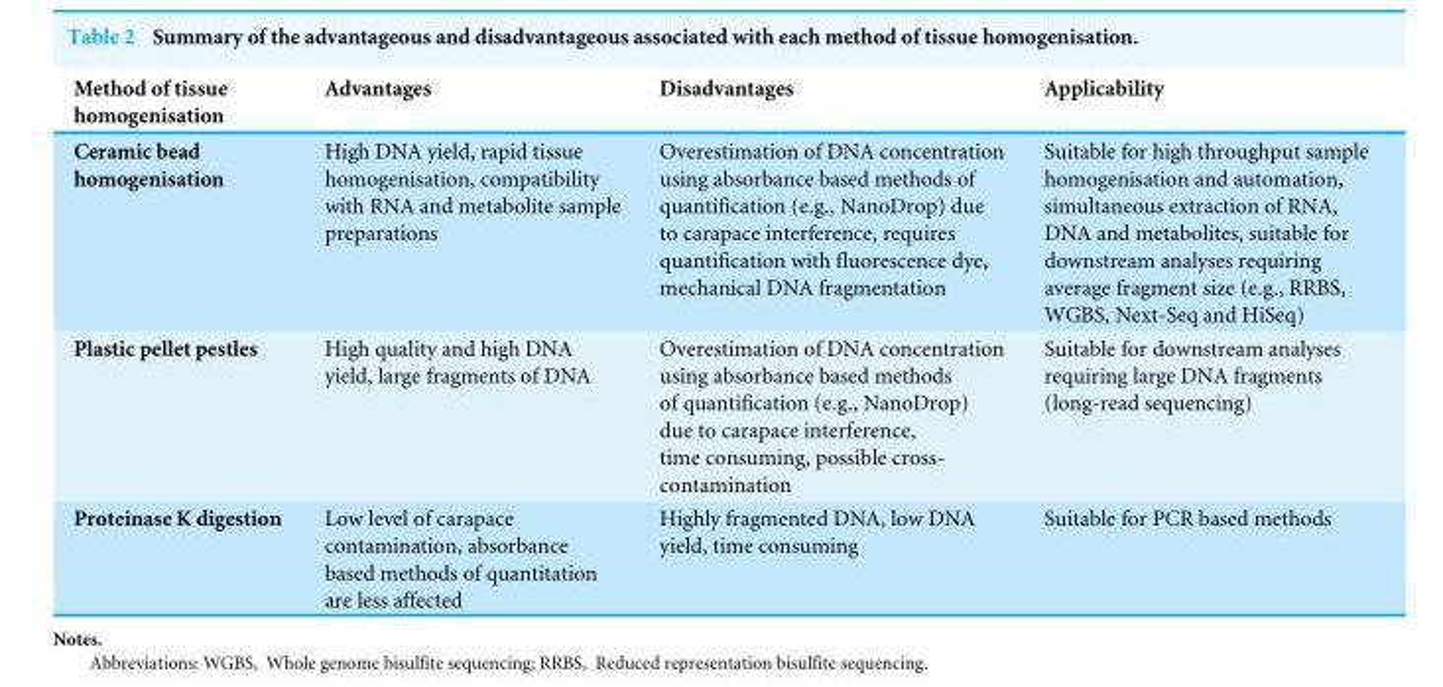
<table><thead><tr><td>Method of tissue homogenisation</td><td>Advantages</td><td>Disadvantages</td><td>Applicability</td></tr></thead><tbody><tr><td>Ceramic bead homogenisation</td><td>High DNA yield, rapid tissue homogenisation, compatibility with RNA and metabolite sample preparations</td><td>Overestimation of DNA concentration using absorbance based methods of quantification (e.g., NanoDrop) due to carapace interference, requires quantification with fluorescence dye, mechanical DNA fragmentation</td><td>Suitable for high throughput sample homogenisation and automation, simultaneous extraction of RNA, DNA and metabolites, suitable for downstream analyses requiring average fragment size (e.g., RRBS, WGBS, Next-Seq and HiSeq)</td></tr><tr><td>Plastic pellet pestles</td><td>High quality and high DNA yield, large fragments of DNA</td><td>Overestimation of DNA concentration using absorbance based methods of quantification (e.g., NanoDrop) due to carapace interference, time consuming, possible cross- contamination</td><td>Suitable for downstream analyses requiring large DNA fragments (long-read sequencing)</td></tr><tr><td>Proteinase K digestion</td><td>Low level of carapace contamination, absorbance based methods of quantitation are less affected</td><td>Highly fragmented DNA, low DNA yield, time consuming</td><td>Suitable for PCR based methods</td></tr></tbody></table>